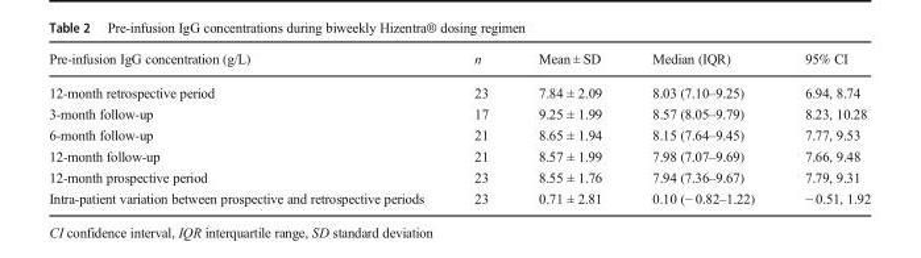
<table><thead><tr><td>Pre-infusion IgG concentration (g/L)</td><td>n</td><td>Mean ± SD</td><td>Median (IQR)</td><td>95% CI</td></tr></thead><tbody><tr><td>12-month retrospective period</td><td>23</td><td>7.84 ± 2.09</td><td>8.03 (7.10–9.25)</td><td>6.94, 8.74</td></tr><tr><td>3-month follow-up</td><td>17</td><td>9.25 ± 1.99</td><td>8.57 (8.05–9.79)</td><td>8.23, 10.28</td></tr><tr><td>6-month follow-up</td><td>21</td><td>8.65 ± 1.94</td><td>8.15 (7.64–9.45)</td><td>7.77, 9.53</td></tr><tr><td>12-month follow-up</td><td>21</td><td>8.57 ± 1.99</td><td>7.98 (7.07–9.69)</td><td>7.66, 9.48</td></tr><tr><td>12-month prospective period</td><td>23</td><td>8.55 ± 1.76</td><td>7.94 (7.36–9.67)</td><td>7.79, 9.31</td></tr><tr><td>Intra-patient variation between prospective and retrospective periods</td><td>23</td><td>0.71 ± 2.81</td><td>0.10 (− 0.82–1.22)</td><td>− 0.51, 1.92</td></tr></tbody></table>